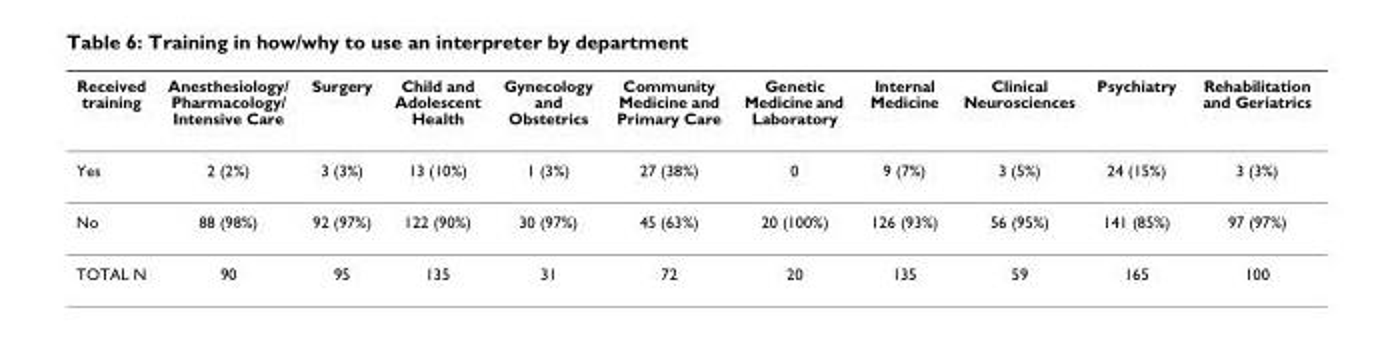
<table><thead><tr><td>Received training</td><td>Anesthesiology/ Pharmacology/ Intensive Care</td><td>Surgery</td><td>Child and Adolescent Health</td><td>Gynecology and Obstetrics</td><td>Community Medicine and Primary Care</td><td>Genetic Medicine and Laboratory</td><td>Internal Medicine</td><td>Clinical Neurosciences</td><td>Psychiatry</td><td>Rehabilitation and Geriatrics</td></tr></thead><tbody><tr><td>Yes</td><td>2 (2%)</td><td>3 (3%)</td><td>13 (10%)</td><td>1 (3%)</td><td>27 (38%)</td><td>0</td><td>9 (7%)</td><td>3 (5%)</td><td>24 (15%)</td><td>3 (3%)</td></tr><tr><td>No</td><td>88 (98%)</td><td>92 (97%)</td><td>122 (90%)</td><td>30 (97%)</td><td>45 (63%)</td><td>20 (100%)</td><td>126 (93%)</td><td>56 (95%)</td><td>141 (85%)</td><td>97 (97%)</td></tr><tr><td>TOTAL N</td><td>90</td><td>95</td><td>135</td><td>31</td><td>72</td><td>20</td><td>135</td><td>59</td><td>165</td><td>100</td></tr></tbody></table>